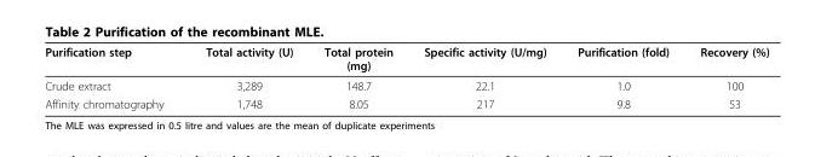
<table><thead><tr><td>Purification step</td><td>Total activity (U)</td><td>Total protein (mg)</td><td>Specific activity (U/mg)</td><td>Purification (fold)</td><td>Recovery (%)</td></tr></thead><tbody><tr><td>Crude extract</td><td>3,289</td><td>148.7</td><td>22.1</td><td>1.0</td><td>100</td></tr><tr><td>Affinity chromatography</td><td>1,748</td><td>8.05</td><td>217</td><td>9.8</td><td>53</td></tr></tbody></table>